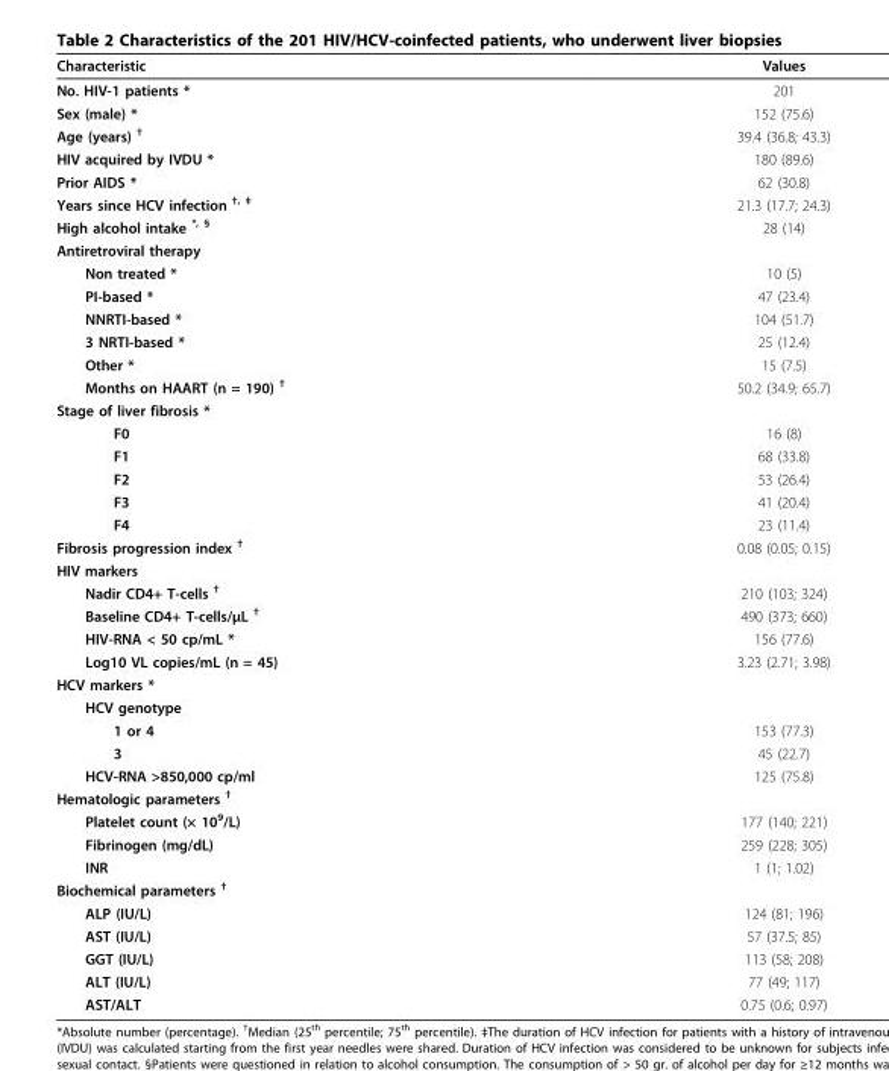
<table><tbody><tr><td>Characteristic</td><td>Values</td></tr><tr><td>No. HIV-1 patients *</td><td>201</td></tr><tr><td>Sex (male) *</td><td>152 (75.6)</td></tr><tr><td>Age (years) <sup>†</sup></td><td>39.4 (36.8; 43.3)</td></tr><tr><td>HIV acquired by IVDU *</td><td>180 (89.6)</td></tr><tr><td>Prior AIDS *</td><td>62 (30.8)</td></tr><tr><td>Years since HCV infection <sup>†, ‡</sup></td><td>21.3 (17.7; 24.3)</td></tr><tr><td>High alcohol intake <sup>*, §</sup></td><td>28 (14)</td></tr><tr><td colspan="2">Antiretroviral therapy</td></tr><tr><td>Non treated *</td><td>10 (5)</td></tr><tr><td>PI-based *</td><td>47 (23.4)</td></tr><tr><td>NNRTI-based *</td><td>104 (51.7)</td></tr><tr><td>3 NRTI-based *</td><td>25 (12.4)</td></tr><tr><td>Other *</td><td>15 (7.5)</td></tr><tr><td>Months on HAART (n = 190) <sup>†</sup></td><td>50.2 (34.9; 65.7)</td></tr><tr><td colspan="2">Stage of liver fibrosis *</td></tr><tr><td>F0</td><td>16 (8)</td></tr><tr><td>F1</td><td>68 (33.8)</td></tr><tr><td>F2</td><td>53 (26.4)</td></tr><tr><td>F3</td><td>41 (20.4)</td></tr><tr><td>F4</td><td>23 (11.4)</td></tr><tr><td>Fibrosis progression index <sup>†</sup></td><td>0.08 (0.05; 0.15)</td></tr><tr><td colspan="2">HIV markers</td></tr><tr><td>Nadir CD4+ T-cells <sup>†</sup></td><td>210 (103; 324)</td></tr><tr><td>Baseline CD4+ T-cells/μL <sup>†</sup></td><td>490 (373; 660)</td></tr><tr><td>HIV-RNA &lt; 50 cp/mL *</td><td>156 (77.6)</td></tr><tr><td>Log10 VL copies/mL (n = 45)</td><td>3.23 (2.71; 3.98)</td></tr><tr><td colspan="2">HCV markers *</td></tr><tr><td colspan="2">HCV genotype</td></tr><tr><td>1 or 4</td><td>153 (77.3)</td></tr><tr><td>3</td><td>45 (22.7)</td></tr><tr><td>HCV-RNA &gt;850,000 cp/ml</td><td>125 (75.8)</td></tr><tr><td colspan="2">Hematologic parameters <sup>†</sup></td></tr><tr><td>Platelet count (× 10<sup>9</sup>/L)</td><td>177 (140; 221)</td></tr><tr><td>Fibrinogen (mg/dL)</td><td>259 (228; 305)</td></tr><tr><td>INR</td><td>1 (1; 1.02)</td></tr><tr><td colspan="2">Biochemical parameters <sup>†</sup></td></tr><tr><td>ALP (IU/L)</td><td>124 (81; 196)</td></tr><tr><td>AST (IU/L)</td><td>57 (37.5; 85)</td></tr><tr><td>GGT (IU/L)</td><td>113 (58; 208)</td></tr><tr><td>ALT (IU/L)</td><td>77 (49; 117)</td></tr><tr><td>AST/ALT</td><td>0.75 (0.6; 0.97)</td></tr></tbody></table>